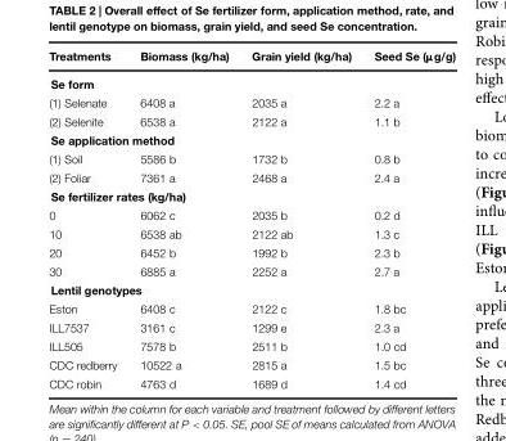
<table><thead><tr><td>Treatments</td><td>Biomass (kg/ha)</td><td>Grain yield (kg/ha)</td><td>Seed Se (µµµg/g)</td></tr></thead><tbody><tr><td colspan="4">Se form</td></tr><tr><td>(1) Selenate</td><td>6408 a</td><td>2035 a</td><td>2.2 a</td></tr><tr><td>(2) Selenite</td><td>6538 a</td><td>2122 a</td><td>1.1 b</td></tr><tr><td colspan="4">Se application method</td></tr><tr><td>(1) Soil</td><td>5586 b</td><td>1732 b</td><td>0.8 b</td></tr><tr><td>(2) Foliar</td><td>7361 a</td><td>2468 a</td><td>2.4 a</td></tr><tr><td colspan="4">Se fertilizer rates (kg/ha)</td></tr><tr><td>0</td><td>6062 c</td><td>2035 b</td><td>0.2 d</td></tr><tr><td>10</td><td>6538 ab</td><td>2122 ab</td><td>1.3 c</td></tr><tr><td>20</td><td>6452 b</td><td>1992 b</td><td>2.3 b</td></tr><tr><td>30</td><td>6885 a</td><td>2252 a</td><td>2.7 a</td></tr><tr><td colspan="4">Lentil genotypes</td></tr><tr><td>Eston</td><td>6408 c</td><td>2122 c</td><td>1.8 bc</td></tr><tr><td>ILL7537</td><td>3161 c</td><td>1299 e</td><td>2.3 a</td></tr><tr><td>ILL505</td><td>7578 b</td><td>2511 b</td><td>1.0 cd</td></tr><tr><td>CDC redberry</td><td>10522 a</td><td>2815 a</td><td>1.5 bc</td></tr><tr><td>CDC robin</td><td>4763 d</td><td>1689 d</td><td>1.4 cd</td></tr></tbody></table>